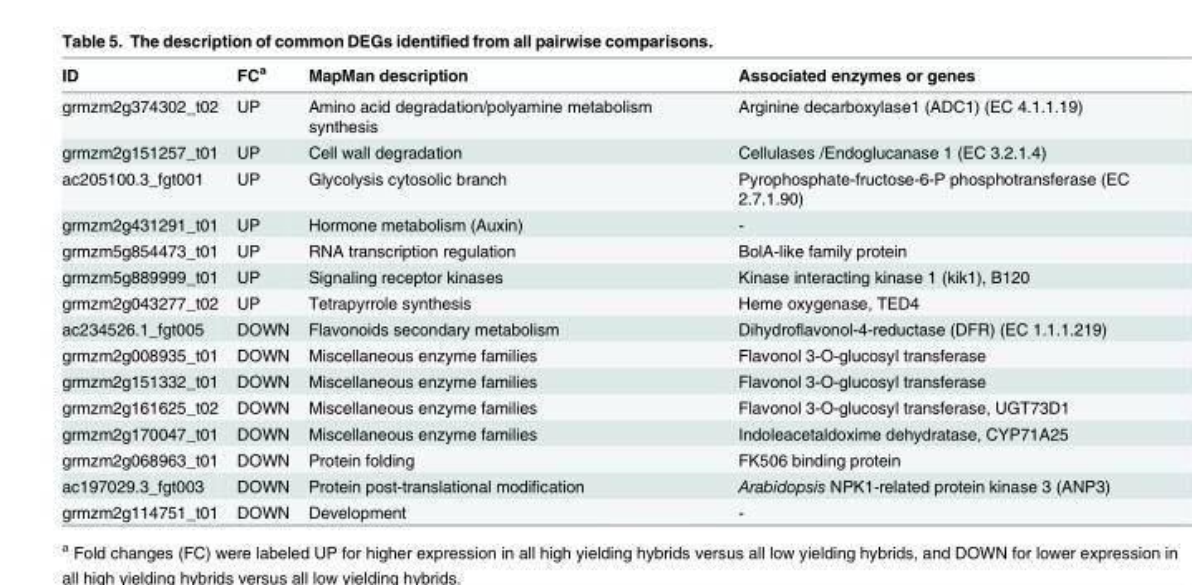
<table><thead><tr><td>ID</td><td>FC<sup>a</sup></td><td>MapMan description</td><td>Associated enzymes or genes</td></tr></thead><tbody><tr><td>grmzm2g374302_t02</td><td>UP</td><td>Amino acid degradation/polyamine metabolism synthesis</td><td>Arginine decarboxylase1 (ADC1) (EC 4.1.1.19)</td></tr><tr><td>grmzm2g151257_t01</td><td>UP</td><td>Cell wall degradation</td><td>Cellulases /Endoglucanase 1 (EC 3.2.1.4)</td></tr><tr><td>ac205100.3_fgt001</td><td>UP</td><td>Glycolysis cytosolic branch</td><td>Pyrophosphate-fructose-6-P phosphotransferase (EC 2.7.1.90)</td></tr><tr><td>grmzm2g431291_t01</td><td>UP</td><td>Hormone metabolism (Auxin)</td><td>-</td></tr><tr><td>grmzm5g854473_t01</td><td>UP</td><td>RNA transcription regulation</td><td>BolA-like family protein</td></tr><tr><td>grmzm5g889999_t01</td><td>UP</td><td>Signaling receptor kinases</td><td>Kinase interacting kinase 1 (kik1), B120</td></tr><tr><td>grmzm2g043277_t02</td><td>UP</td><td>Tetrapyrrole synthesis</td><td>Heme oxygenase, TED4</td></tr><tr><td>ac234526.1_fgt005</td><td>DOWN</td><td>Flavonoids secondary metabolism</td><td>Dihydroflavonol-4-reductase (DFR) (EC 1.1.1.219)</td></tr><tr><td>grmzm2g008935_t01</td><td>DOWN</td><td>Miscellaneous enzyme families</td><td>Flavonol 3-O-glucosyl transferase</td></tr><tr><td>grmzm2g151332_t01</td><td>DOWN</td><td>Miscellaneous enzyme families</td><td>Flavonol 3-O-glucosyl transferase</td></tr><tr><td>grmzm2g161625_t02</td><td>DOWN</td><td>Miscellaneous enzyme families</td><td>Flavonol 3-O-glucosyl transferase, UGT73D1</td></tr><tr><td>grmzm2g170047_t01</td><td>DOWN</td><td>Miscellaneous enzyme families</td><td>Indoleacetaldoxime dehydratase, CYP71A25</td></tr><tr><td>grmzm2g068963_t01</td><td>DOWN</td><td>Protein folding</td><td>FK506 binding protein</td></tr><tr><td>ac197029.3_fgt003</td><td>DOWN</td><td>Protein post-translational modification</td><td>Arabidopsis NPK1-related protein kinase 3 (ANP3)</td></tr><tr><td>grmzm2g114751_t01</td><td>DOWN</td><td>Development</td><td>-</td></tr></tbody></table>